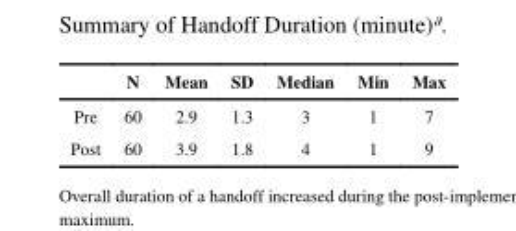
<table><thead><tr><td></td><td>N</td><td>Mean</td><td>SD</td><td>Median</td><td>Min</td><td>Max</td></tr></thead><tbody><tr><td>Pre</td><td>60</td><td>2.9</td><td>1.3</td><td>3</td><td>1</td><td>7</td></tr><tr><td>Post</td><td>60</td><td>3.9</td><td>1.8</td><td>4</td><td>1</td><td>9</td></tr></tbody></table>